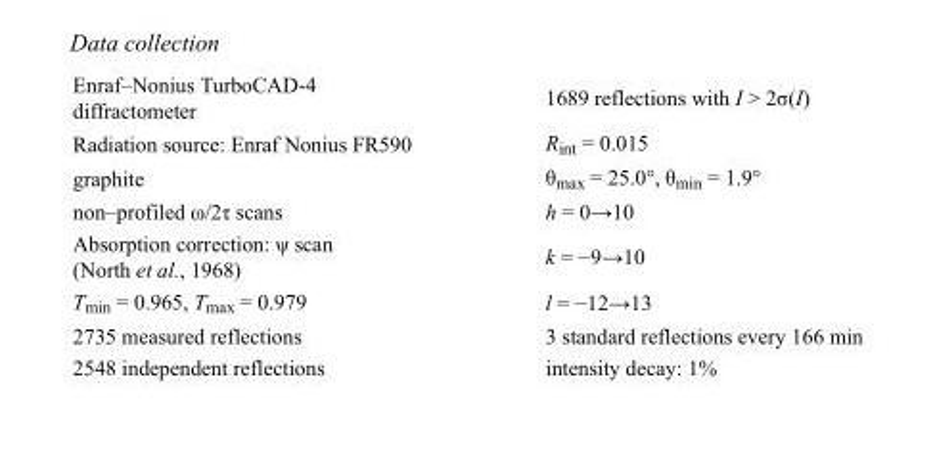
<table><tbody><tr><td>Enraf–Nonius TurboCAD-4 diffractometer</td><td>1689 reflections with I &gt; 2σ(I)</td></tr><tr><td>Radiation source: Enraf Nonius FR590</td><td>R<sub>int</sub> = 0.015</td></tr><tr><td>graphite</td><td>θ<sub>max</sub> = 25.0°, θ<sub>min</sub> = 1.9°</td></tr><tr><td>non–profiled ω/2τ scans</td><td>h = 0→10</td></tr><tr><td>Absorption correction: ψ scan (North et al., 1968)</td><td>k = −9→10</td></tr><tr><td>T<sub>min</sub> = 0.965, T<sub>max</sub> = 0.979</td><td>l = −12→13</td></tr><tr><td>2735 measured reflections</td><td>3 standard reflections every 166 min</td></tr><tr><td>2548 independent reflections</td><td>intensity decay: 1%</td></tr></tbody></table>